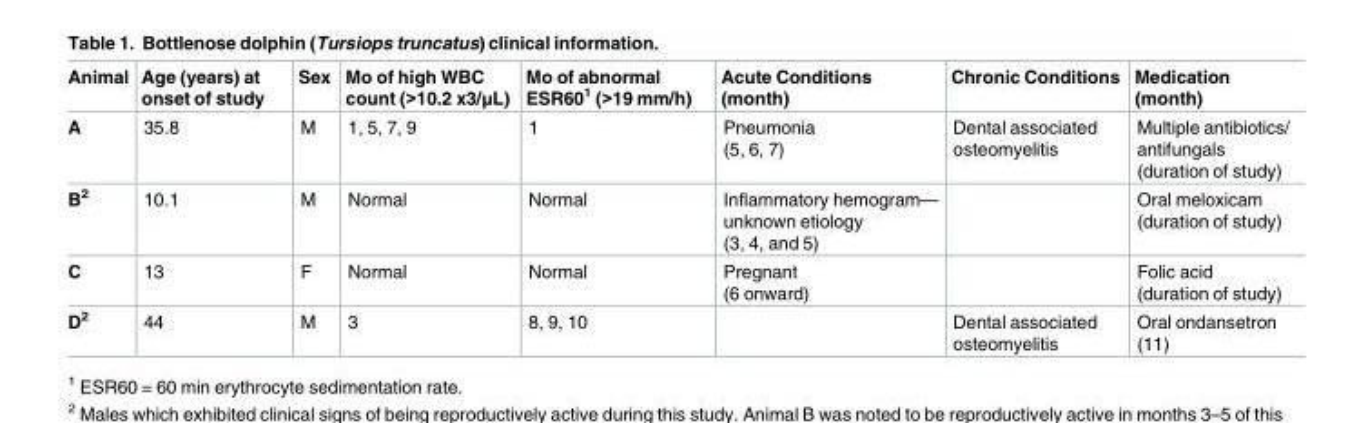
<table><thead><tr><td>Animal</td><td>Age (years) at onset of study</td><td>Sex</td><td>Mo of high WBC count (&gt;10.2 x3/μL)</td><td>Mo of abnormal ESR60<sup>1</sup> (&gt;19 mm/h)</td><td>Acute Conditions (month)</td><td>Chronic Conditions</td><td>Medication (month)</td></tr></thead><tbody><tr><td>A</td><td>35.8</td><td>M</td><td>1, 5, 7, 9</td><td>1</td><td>Pneumonia (5, 6, 7)</td><td>Dental associated osteomyelitis</td><td>Multiple antibiotics/ antifungals (duration of study)</td></tr><tr><td>B<sup>2</sup></td><td>10.1</td><td>M</td><td>Normal</td><td>Normal</td><td>Inflammatory hemogram— unknown etiology (3, 4, and 5)</td><td></td><td>Oral meloxicam (duration of study)</td></tr><tr><td>C</td><td>13</td><td>F</td><td>Normal</td><td>Normal</td><td>Pregnant (6 onward)</td><td></td><td>Folic acid (duration of study)</td></tr><tr><td>D<sup>2</sup></td><td>44</td><td>M</td><td>3</td><td>8, 9, 10</td><td></td><td>Dental associated osteomyelitis</td><td>Oral ondansetron (11)</td></tr></tbody></table>